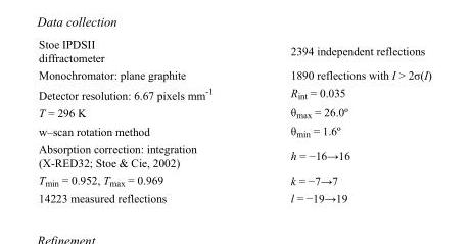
<table><tbody><tr><td>Stoe IPDSII diffractometer</td><td>2394 independent reflections</td></tr><tr><td>Monochromator: plane graphite</td><td>1890 reflections with I &gt; 2σ(I)</td></tr><tr><td>Detector resolution: 6.67 pixels mm<sup>-1</sup></td><td>R<sub>int</sub> = 0.035</td></tr><tr><td>T = 296 K</td><td>θ<sub>max</sub> = 26.0º</td></tr><tr><td>w–scan rotation method</td><td>θ<sub>min</sub> = 1.6º</td></tr><tr><td>Absorption correction: integration (X-RED32; Stoe &amp; Cie, 2002)</td><td>h = −16→16</td></tr><tr><td>T<sub>min</sub> = 0.952, T<sub>max</sub> = 0.969</td><td>k = −7→7</td></tr><tr><td>14223 measured reflections</td><td>l = −19→19</td></tr></tbody></table>